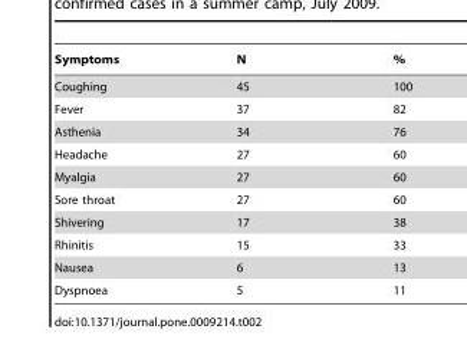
<table><thead><tr><td>Symptoms</td><td>N</td><td>%</td></tr></thead><tbody><tr><td>Coughing</td><td>45</td><td>100</td></tr><tr><td>Fever</td><td>37</td><td>82</td></tr><tr><td>Asthenia</td><td>34</td><td>76</td></tr><tr><td>Headache</td><td>27</td><td>60</td></tr><tr><td>Myalgia</td><td>27</td><td>60</td></tr><tr><td>Sore throat</td><td>27</td><td>60</td></tr><tr><td>Shivering</td><td>17</td><td>38</td></tr><tr><td>Rhinitis</td><td>15</td><td>33</td></tr><tr><td>Nausea</td><td>6</td><td>13</td></tr><tr><td>Dyspnoea</td><td>5</td><td>11</td></tr></tbody></table>